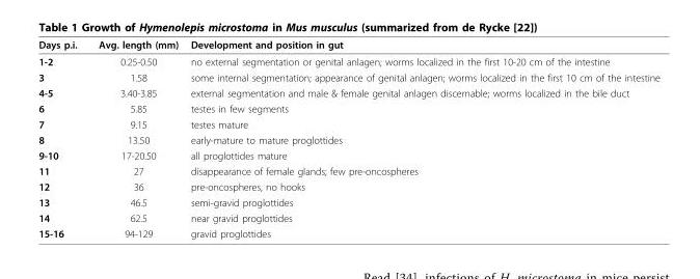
<table><thead><tr><td>Days p.i.</td><td>Avg. length (mm)</td><td>Development and position in gut</td></tr></thead><tbody><tr><td>1-2</td><td>0.25-0.50</td><td>no external segmentation or genital anlagen; worms localized in the first 10-20 cm of the intestine</td></tr><tr><td>3</td><td>1.58</td><td>some internal segmentation; appearance of genital anlagen; worms localized in the first 10 cm of the intestine</td></tr><tr><td>4-5</td><td>3.40-3.85</td><td>external segmentation and male &amp; female genital anlagen discernable; worms localized in the bile duct</td></tr><tr><td>6</td><td>5.85</td><td>testes in few segments</td></tr><tr><td>7</td><td>9.15</td><td>testes mature</td></tr><tr><td>8</td><td>13.50</td><td>early-mature to mature proglottides</td></tr><tr><td>9-10</td><td>17-20.50</td><td>all proglottides mature</td></tr><tr><td>11</td><td>27</td><td>disappearance of female glands; few pre-oncospheres</td></tr><tr><td>12</td><td>36</td><td>pre-oncospheres, no hooks</td></tr><tr><td>13</td><td>46.5</td><td>semi-gravid proglottides</td></tr><tr><td>14</td><td>62.5</td><td>near gravid proglottides</td></tr><tr><td>15-16</td><td>94-129</td><td>gravid proglottides</td></tr></tbody></table>